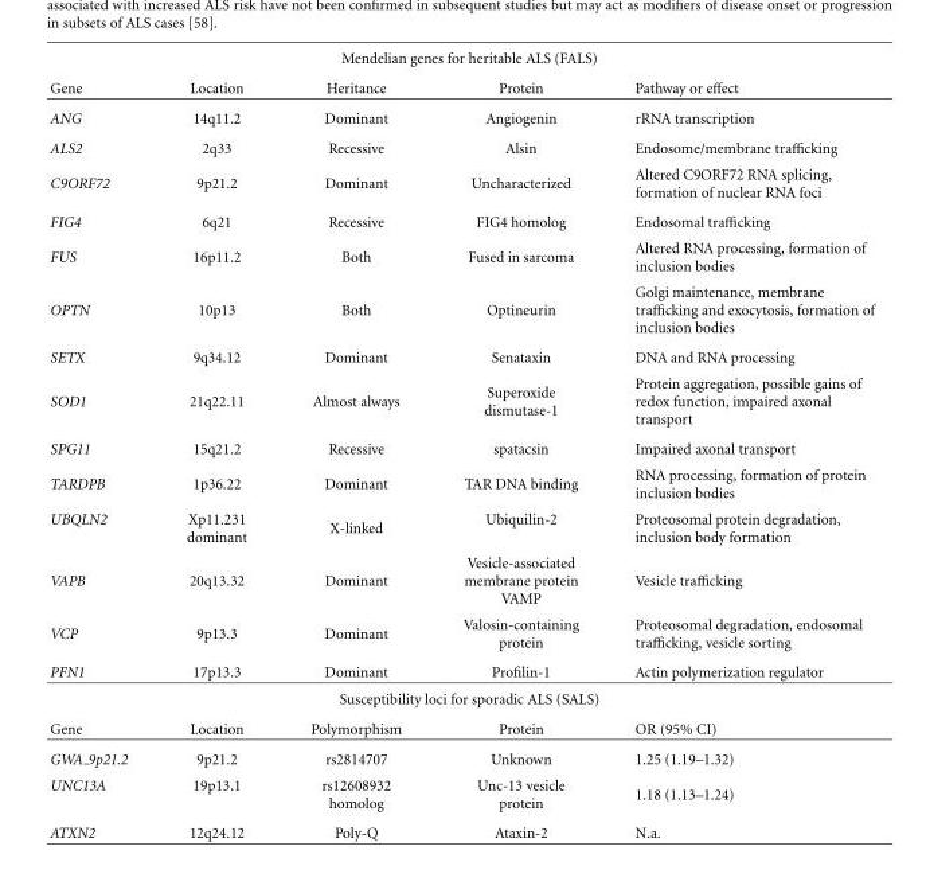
<table><thead><tr><td colspan="5">Mendelian genes for heritable ALS (FALS)</td></tr><tr><td>Gene</td><td>Location</td><td>Heritance</td><td>Protein</td><td>Pathway or effect</td></tr></thead><tbody><tr><td>ANG</td><td>14q11.2</td><td>Dominant</td><td>Angiogenin</td><td>rRNA transcription</td></tr><tr><td>ALS2</td><td>2q33</td><td>Recessive</td><td>Alsin</td><td>Endosome/membrane trafficking</td></tr><tr><td>C9ORF72</td><td>9p21.2</td><td>Dominant</td><td>Uncharacterized</td><td>Altered C9ORF72 RNA splicing, formation of nuclear RNA foci</td></tr><tr><td>FIG4</td><td>6q21</td><td>Recessive</td><td>FIG4 homolog</td><td>Endosomal trafficking</td></tr><tr><td>FUS</td><td>16p11.2</td><td>Both</td><td>Fused in sarcoma</td><td>Altered RNA processing, formation of inclusion bodies</td></tr><tr><td>OPTN</td><td>10p13</td><td>Both</td><td>Optineurin</td><td>Golgi maintenance, membrane trafficking and exocytosis, formation of inclusion bodies</td></tr><tr><td>SETX</td><td>9q34.12</td><td>Dominant</td><td>Senataxin</td><td>DNA and RNA processing</td></tr><tr><td>SOD1</td><td>21q22.11</td><td>Almost always</td><td>Superoxide dismutase-1</td><td>Protein aggregation, possible gains of redox function, impaired axonal transport</td></tr><tr><td>SPG11</td><td>15q21.2</td><td>Recessive</td><td>spatacsin</td><td>Impaired axonal transport</td></tr><tr><td>TARDPB</td><td>1p36.22</td><td>Dominant</td><td>TAR DNA binding</td><td>RNA processing, formation of protein inclusion bodies</td></tr><tr><td>UBQLN2</td><td>Xp11.231 dominant</td><td>X-linked</td><td>Ubiquilin-2</td><td>Proteosomal protein degradation, inclusion body formation</td></tr><tr><td>VAPB</td><td>20q13.32</td><td>Dominant</td><td>Vesicle-associated membrane protein VAMP</td><td>Vesicle trafficking</td></tr><tr><td>VCP</td><td>9p13.3</td><td>Dominant</td><td>Valosin-containing protein</td><td>Proteosomal degradation, endosomal trafficking, vesicle sorting</td></tr><tr><td>PFN1</td><td>17p13.3</td><td>Dominant</td><td>Profilin-1</td><td>Actin polymerization regulator</td></tr><tr><td colspan="5">Susceptibility loci for sporadic ALS (SALS)</td></tr><tr><td>Gene</td><td>Location</td><td>Polymorphism</td><td>Protein</td><td>OR (95% CI)</td></tr><tr><td>GWA 9p21.2</td><td>9p21.2</td><td>rs2814707</td><td>Unknown</td><td>1.25 (1.19–1.32)</td></tr><tr><td>UNC13A</td><td>19p13.1</td><td>rs12608932 homolog</td><td>Unc-13 vesicle protein</td><td>1.18 (1.13–1.24)</td></tr><tr><td>ATXN2</td><td>12q24.12</td><td>Poly-Q</td><td>Ataxin-2</td><td>N.a.</td></tr></tbody></table>